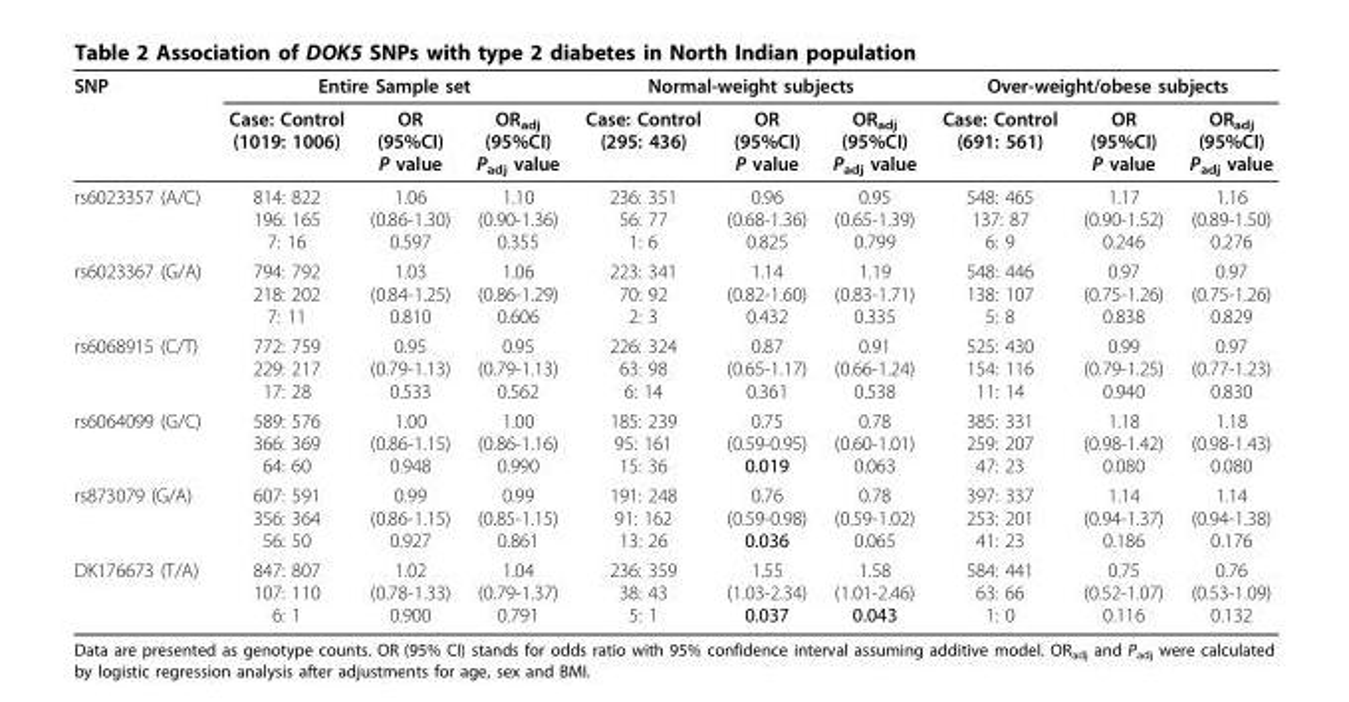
<table><thead><tr><td rowspan="2">SNP</td><td colspan="3">Entire Sample set</td><td colspan="3">Normal-weight subjects</td><td colspan="3">Over-weight/obese subjects</td></tr><tr><td>Case: Control (1019: 1006)</td><td>OR (95%CI) P value</td><td>OR<sub>adj</sub> (95%CI) P<sub>adj</sub> value</td><td>Case: Control (295: 436)</td><td>OR (95%CI) P value</td><td>OR<sub>adj</sub> (95%CI) P<sub>adj</sub> value</td><td>Case: Control (691: 561)</td><td>OR (95%CI) P value</td><td>OR<sub>adj</sub> (95%CI) P<sub>adj</sub> value</td></tr></thead><tbody><tr><td>rs6023357 (A/C)</td><td>814: 822 196: 165 7: 16</td><td>1.06 (0.86-1.30) 0.597</td><td>1.10 (0.90-1.36) 0.355</td><td>236: 351 56: 77 1: 6</td><td>0.96 (0.68-1.36) 0.825</td><td>0.95 (0.65-1.39) 0.799</td><td>548: 465 137: 87 6: 9</td><td>1.17 (0.90-1.52) 0.246</td><td>1.16 (0.89-1.50) 0.276</td></tr><tr><td>rs6023367 (G/A)</td><td>794: 792 218: 202 7: 11</td><td>1.03 (0.84-1.25) 0.810</td><td>1.06 (0.86-1.29) 0.606</td><td>223: 341 70: 92 2: 3</td><td>1.14 (0.82-1.60) 0.432</td><td>1.19 (0.83-1.71) 0.335</td><td>548: 446 138: 107 5: 8</td><td>0.97 (0.75-1.26) 0.838</td><td>0.97 (0.75-1.26) 0.829</td></tr><tr><td>rs6068915 (C/T)</td><td>772: 759 229: 217 17: 28</td><td>0.95 (0.79-1.13) 0.533</td><td>0.95 (0.79-1.13) 0.562</td><td>226: 324 63: 98 6: 14</td><td>0.87 (0.65-1.17) 0.361</td><td>0.91 (0.66-1.24) 0.538</td><td>525: 430 154: 116 11: 14</td><td>0.99 (0.79-1.25) 0.940</td><td>0.97 (0.77-1.23) 0.830</td></tr><tr><td>rs6064099 (G/C)</td><td>589: 576 366: 369 64: 60</td><td>1.00 (0.86-1.15) 0.948</td><td>1.00 (0.86-1.16) 0.990</td><td>185: 239 95: 161 15: 36</td><td>0.75 (0.59-0.95) 0.019</td><td>0.78 (0.60-1.01) 0.063</td><td>385: 331 259: 207 47: 23</td><td>1.18 (0.98-1.42) 0.080</td><td>1.18 (0.98-1.43) 0.080</td></tr><tr><td>rs873079 (G/A)</td><td>607: 591 356: 364 56: 50</td><td>0.99 (0.86-1.15) 0.927</td><td>0.99 (0.85-1.15) 0.861</td><td>191: 248 91: 162 13: 26</td><td>0.76 (0.59-0.98) 0.036</td><td>0.78 (0.59-1.02) 0.065</td><td>397: 337 253: 201 41: 23</td><td>1.14 (0.94-1.37) 0.186</td><td>1.14 (0.94-1.38) 0.176</td></tr><tr><td>DK176673 (T/A)</td><td>847: 807 107: 110 6: 1</td><td>1.02 (0.78-1.33) 0.900</td><td>1.04 (0.79-1.37) 0.791</td><td>236: 359 38: 43 5: 1</td><td>1.55 (1.03-2.34) 0.037</td><td>1.58 (1.01-2.46) 0.043</td><td>584: 441 63: 66 1: 0</td><td>0.75 (0.52-1.07) 0.116</td><td>0.76 (0.53-1.09) 0.132</td></tr></tbody></table>